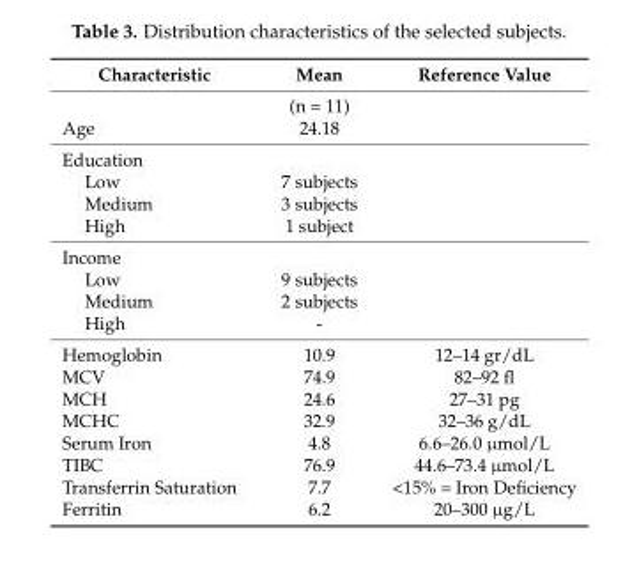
<table><thead><tr><td>Characteristic</td><td>Mean</td><td>Reference Value</td></tr></thead><tbody><tr><td></td><td>(n = 11)</td><td></td></tr><tr><td>Age</td><td>24.18</td><td></td></tr><tr><td colspan="3">Education</td></tr><tr><td>Low</td><td>7 subjects</td><td></td></tr><tr><td>Medium</td><td>3 subjects</td><td></td></tr><tr><td>High</td><td>1 subject</td><td></td></tr><tr><td colspan="3">Income</td></tr><tr><td>Low</td><td>9 subjects</td><td></td></tr><tr><td>Medium</td><td>2 subjects</td><td></td></tr><tr><td>High</td><td>-</td><td></td></tr><tr><td>Hemoglobin</td><td>10.9</td><td>12–14 gr/dL</td></tr><tr><td>MCV</td><td>74.9</td><td>82–92 fl</td></tr><tr><td>MCH</td><td>24.6</td><td>27–31 pg</td></tr><tr><td>MCHC</td><td>32.9</td><td>32–36 g/dL</td></tr><tr><td>Serum Iron</td><td>4.8</td><td>6.6–26.0 µmol/L</td></tr><tr><td>TIBC</td><td>76.9</td><td>44.6–73.4 µmol/L</td></tr><tr><td>Transferrin Saturation</td><td>7.7</td><td>&lt;15% = Iron Deficiency</td></tr><tr><td>Ferritin</td><td>6.2</td><td>20–300 µg/L</td></tr></tbody></table>